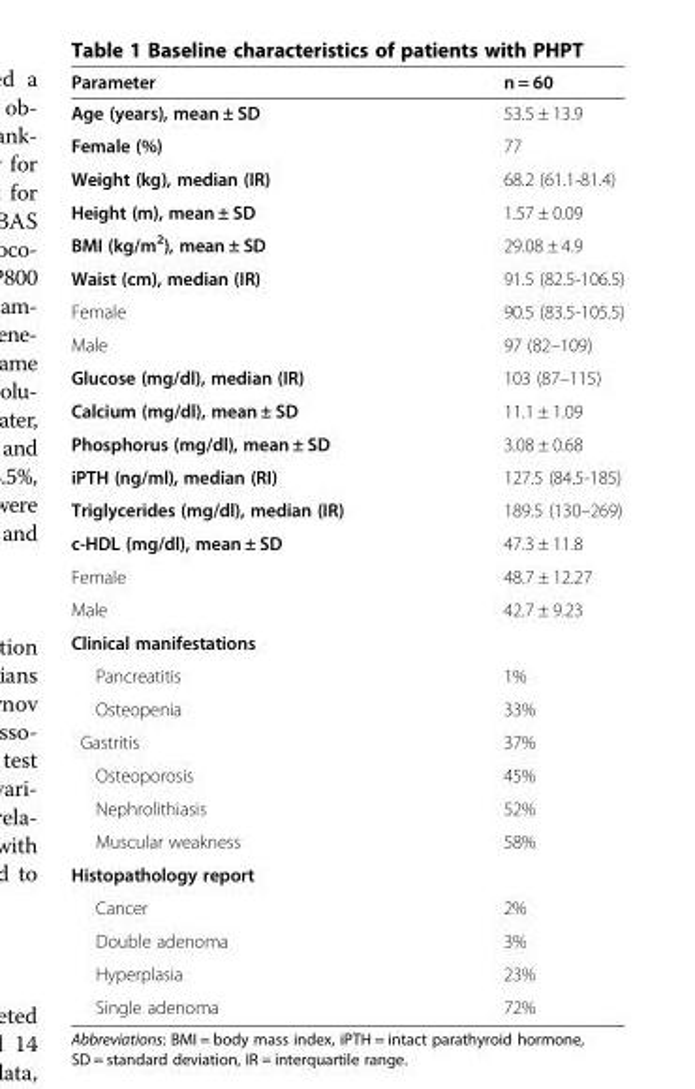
<table><thead><tr><td>Parameter</td><td>n = 60</td></tr></thead><tbody><tr><td>Age (years), mean ± SD</td><td>53.5 ± 13.9</td></tr><tr><td>Female (%)</td><td>77</td></tr><tr><td>Weight (kg), median (IR)</td><td>68.2 (61.1-81.4)</td></tr><tr><td>Height (m), mean ± SD</td><td>1.57 ± 0.09</td></tr><tr><td>BMI (kg/m<sup>2</sup>), mean ± SD</td><td>29.08 ± 4.9</td></tr><tr><td>Waist (cm), median (IR)</td><td>91.5 (82.5-106.5)</td></tr><tr><td>Female</td><td>90.5 (83.5-105.5)</td></tr><tr><td>Male</td><td>97 (82–109)</td></tr><tr><td>Glucose (mg/dl), median (IR)</td><td>103 (87–115)</td></tr><tr><td>Calcium (mg/dl), mean ± SD</td><td>11.1 ± 1.09</td></tr><tr><td>Phosphorus (mg/dl), mean ± SD</td><td>3.08 ± 0.68</td></tr><tr><td>iPTH (ng/ml), median (RI)</td><td>127.5 (84.5-185)</td></tr><tr><td>Triglycerides (mg/dl), median (IR)</td><td>189.5 (130–269)</td></tr><tr><td>c-HDL (mg/dl), mean ± SD</td><td>47.3 ± 11.8</td></tr><tr><td>Female</td><td>48.7 ± 12.27</td></tr><tr><td>Male</td><td>42.7 ± 9.23</td></tr><tr><td colspan="2">Clinical manifestations</td></tr><tr><td>Pancreatitis</td><td>1%</td></tr><tr><td>Osteopenia</td><td>33%</td></tr><tr><td>Gastritis</td><td>37%</td></tr><tr><td>Osteoporosis</td><td>45%</td></tr><tr><td>Nephrolithiasis</td><td>52%</td></tr><tr><td>Muscular weakness</td><td>58%</td></tr><tr><td colspan="2">Histopathology report</td></tr><tr><td>Cancer</td><td>2%</td></tr><tr><td>Double adenoma</td><td>3%</td></tr><tr><td>Hyperplasia</td><td>23%</td></tr><tr><td>Single adenoma</td><td>72%</td></tr></tbody></table>